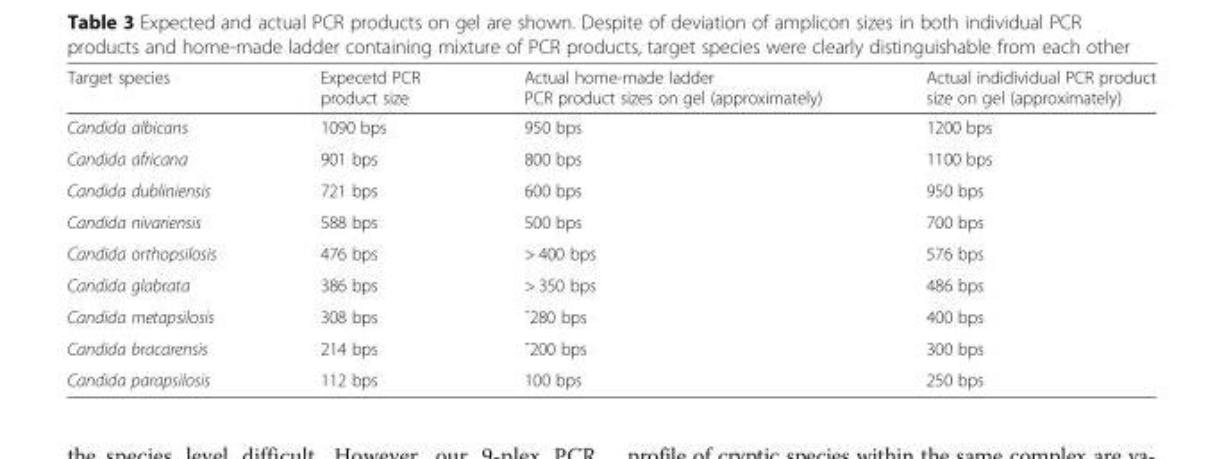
<table><thead><tr><td>Target species</td><td>Expecetd PCR product size</td><td>Actual home-made ladder PCR product sizes on gel (approximately)</td><td>Actual indidividual PCR product size on gel (approximately)</td></tr></thead><tbody><tr><td>Candida albicans</td><td>1090 bps</td><td>950 bps</td><td>1200 bps</td></tr><tr><td>Candida africana</td><td>901 bps</td><td>800 bps</td><td>1100 bps</td></tr><tr><td>Candida dubliniensis</td><td>721 bps</td><td>600 bps</td><td>950 bps</td></tr><tr><td>Candida nivariensis</td><td>588 bps</td><td>500 bps</td><td>700 bps</td></tr><tr><td>Candida orthopsilosis</td><td>476 bps</td><td>&gt; 400 bps</td><td>576 bps</td></tr><tr><td>Candida glabrata</td><td>386 bps</td><td>&gt; 350 bps</td><td>486 bps</td></tr><tr><td>Candida metapsilosis</td><td>308 bps</td><td>˜280 bps</td><td>400 bps</td></tr><tr><td>Candida bracarensis</td><td>214 bps</td><td>˜200 bps</td><td>300 bps</td></tr><tr><td>Candida parapsilosis</td><td>112 bps</td><td>100 bps</td><td>250 bps</td></tr></tbody></table>